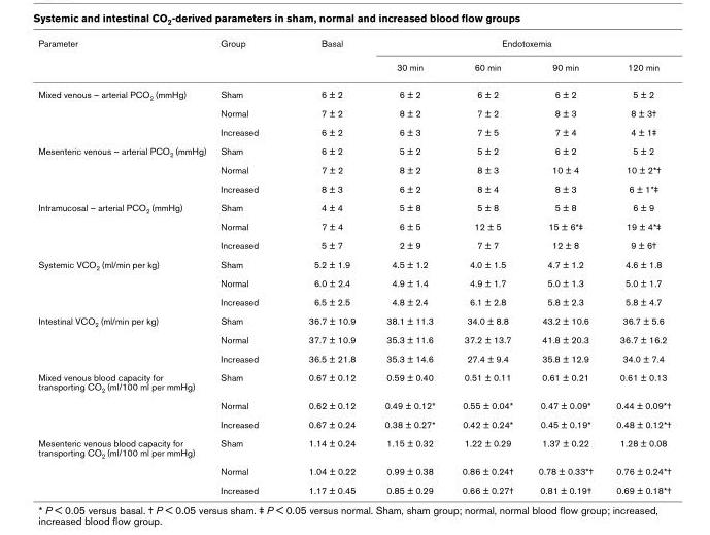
<table><thead><tr><td rowspan="2">Parameter</td><td rowspan="2">Group</td><td rowspan="2">Basal</td><td colspan="4">Endotoxemia</td></tr><tr><td>30 min</td><td>60 min</td><td>90 min</td><td>120 min</td></tr></thead><tbody><tr><td rowspan="3">Mixed venous – arterial PCO2 (mmHg)</td><td>Sham</td><td>6 ± 2</td><td>6 ± 2</td><td>6 ± 2</td><td>6 ± 2</td><td>5 ± 2</td></tr><tr><td>Normal</td><td>7 ± 2</td><td>8 ± 2</td><td>7 ± 2</td><td>8 ± 3</td><td>8 ± 3†</td></tr><tr><td>Increased</td><td>6 ± 2</td><td>6 ± 3</td><td>7 ± 5</td><td>7 ± 4</td><td>4 ± 1‡</td></tr><tr><td rowspan="3">Mesenteric venous – arterial PCO2 (mmHg)</td><td>Sham</td><td>6 ± 2</td><td>5 ± 2</td><td>5 ± 2</td><td>6 ± 2</td><td>5 ± 2</td></tr><tr><td>Normal</td><td>7 ± 2</td><td>8 ± 2</td><td>8 ± 3</td><td>10 ± 4</td><td>10 ± 2*†</td></tr><tr><td>Increased</td><td>8 ± 3</td><td>6 ± 2</td><td>8 ± 4</td><td>8 ± 3</td><td>6 ± 1*‡</td></tr><tr><td rowspan="3">Intramucosal – arterial PCO2 (mmHg)</td><td>Sham</td><td>4 ± 4</td><td>5 ± 8</td><td>5 ± 8</td><td>5 ± 8</td><td>6 ± 9</td></tr><tr><td>Normal</td><td>7 ± 4</td><td>6 ± 5</td><td>12 ± 5</td><td>15 ± 6*‡</td><td>19 ± 4*‡</td></tr><tr><td>Increased</td><td>5 ± 7</td><td>2 ± 9</td><td>7 ± 7</td><td>12 ± 8</td><td>9 ± 6†</td></tr><tr><td rowspan="3">Systemic VCO2 (ml/min per kg)</td><td>Sham</td><td>5.2 ± 1.9</td><td>4.5 ± 1.2</td><td>4.0 ± 1.5</td><td>4.7 ± 1.2</td><td>4.6 ± 1.8</td></tr><tr><td>Normal</td><td>6.0 ± 2.4</td><td>4.9 ± 1.4</td><td>4.9 ± 1.7</td><td>5.0 ± 1.3</td><td>5.0 ± 1.7</td></tr><tr><td>Increased</td><td>6.5 ± 2.5</td><td>4.8 ± 2.4</td><td>6.1 ± 2.8</td><td>5.8 ± 2.3</td><td>5.8 ± 4.7</td></tr><tr><td rowspan="3">Intestinal VCO2 (ml/min per kg)</td><td>Sham</td><td>36.7 ± 10.9</td><td>38.1 ± 11.3</td><td>34.0 ± 8.8</td><td>43.2 ± 10.6</td><td>36.7 ± 5.6</td></tr><tr><td>Normal</td><td>37.7 ± 10.9</td><td>35.3 ± 11.6</td><td>37.2 ± 13.7</td><td>41.8 ± 20.3</td><td>36.7 ± 16.2</td></tr><tr><td>Increased</td><td>36.5 ± 21.8</td><td>35.3 ± 14.6</td><td>27.4 ± 9.4</td><td>35.8 ± 12.9</td><td>34.0 ± 7.4</td></tr><tr><td rowspan="3">Mixed venous blood capacity for transporting CO2 (ml/100 ml per mmHg)</td><td>Sham</td><td>0.67 ± 0.12</td><td>0.59 ± 0.40</td><td>0.51 ± 0.11</td><td>0.61 ± 0.21</td><td>0.61 ± 0.13</td></tr><tr><td>Normal</td><td>0.62 ± 0.12</td><td>0.49 ± 0.12*</td><td>0.55 ± 0.04*</td><td>0.47 ± 0.09*</td><td>0.44 ± 0.09*†</td></tr><tr><td>Increased</td><td>0.67 ± 0.24</td><td>0.38 ± 0.27*</td><td>0.42 ± 0.24*</td><td>0.45 ± 0.19*</td><td>0.48 ± 0.12*†</td></tr><tr><td rowspan="3">Mesenteric venous blood capacity for transporting CO2 (ml/100 ml per mmHg)</td><td>Sham</td><td>1.14 ± 0.24</td><td>1.15 ± 0.32</td><td>1.22 ± 0.29</td><td>1.37 ± 0.22</td><td>1.28 ± 0.08</td></tr><tr><td>Normal</td><td>1.04 ± 0.22</td><td>0.99 ± 0.38</td><td>0.86 ± 0.24†</td><td>0.78 ± 0.33*†</td><td>0.76 ± 0.24*†</td></tr><tr><td>Increased</td><td>1.17 ± 0.45</td><td>0.85 ± 0.29</td><td>0.66 ± 0.27†</td><td>0.81 ± 0.19†</td><td>0.69 ± 0.18*†</td></tr></tbody></table>